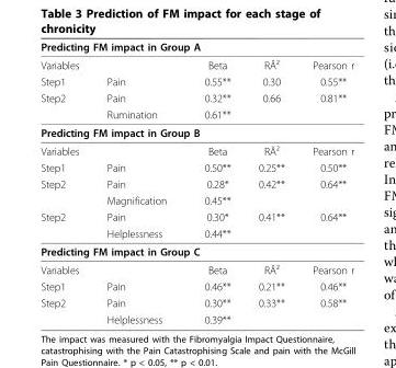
<table><thead><tr><td colspan="5">Predicting FM impact in Group A</td></tr><tr><td>Variables</td><td></td><td>Beta</td><td>RÂ²</td><td>Pearson r</td></tr></thead><tbody><tr><td>Step1</td><td>Pain</td><td>0.55**</td><td>0.30</td><td>0.55**</td></tr><tr><td rowspan="2">Step2</td><td>Pain</td><td>0.32**</td><td>0.66</td><td>0.81**</td></tr><tr><td>Rumination</td><td>0.61**</td><td></td><td></td></tr><tr><td colspan="5">Predicting FM impact in Group B</td></tr><tr><td>Variables</td><td></td><td>Beta</td><td>RÂ²</td><td>Pearson r</td></tr><tr><td>Step1</td><td>Pain</td><td>0.50**</td><td>0.25**</td><td>0.50**</td></tr><tr><td rowspan="2">Step2</td><td>Pain</td><td>0.28*</td><td>0.42**</td><td>0.64**</td></tr><tr><td>Magnification</td><td>0.45**</td><td></td><td></td></tr><tr><td rowspan="2">Step2</td><td>Pain</td><td>0.30*</td><td>0.41**</td><td>0.64**</td></tr><tr><td>Helplessness</td><td>0.44**</td><td></td><td></td></tr><tr><td colspan="5">Predicting FM impact in Group C</td></tr><tr><td>Variables</td><td></td><td>Beta</td><td>RÂ²</td><td>Pearson r</td></tr><tr><td>Step1</td><td>Pain</td><td>0.46**</td><td>0.21**</td><td>0.46**</td></tr><tr><td rowspan="2">Step2</td><td>Pain</td><td>0.30**</td><td>0.33**</td><td>0.58**</td></tr><tr><td>Helplessness</td><td>0.39**</td><td></td><td></td></tr></tbody></table>